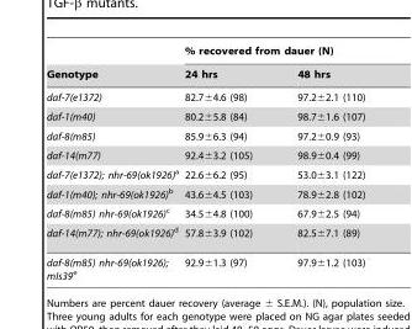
<table><thead><tr><td rowspan="2">Genotype</td><td colspan="2">% recovered from dauer (N)</td></tr><tr><td>24 hrs</td><td>48 hrs</td></tr></thead><tbody><tr><td>daf-7(e1372)</td><td>82.7±4.6 (98)</td><td>97.2±2.1 (110)</td></tr><tr><td>daf-1(m40)</td><td>80.2±5.8 (84)</td><td>98.7±1.6 (107)</td></tr><tr><td>daf-8(m85)</td><td>85.9±6.3 (94)</td><td>97.2±0.9 (93)</td></tr><tr><td>daf-14(m77)</td><td>92.4±3.2 (105)</td><td>98.9±0.4 (99)</td></tr><tr><td>daf-7(e1372); nhr-69(ok1926)a</td><td>22.6±6.2 (95)</td><td>53.0±3.1 (122)</td></tr><tr><td>daf-1(m40); nhr-69(ok1926)b</td><td>43.6±4.5 (103)</td><td>78.9±2.8 (102)</td></tr><tr><td>daf-8(m85) nhr-69(ok1926)c</td><td>34.5±4.8 (100)</td><td>67.9±2.5 (94)</td></tr><tr><td>daf-14(m77); nhr-69(ok1926)d</td><td>57.8±3.9 (102)</td><td>82.5±7.1 (89)</td></tr><tr><td>daf-8(m85) nhr-69(ok1926); mIs39e</td><td>92.9±1.3 (97)</td><td>97.9±1.2 (103)</td></tr></tbody></table>